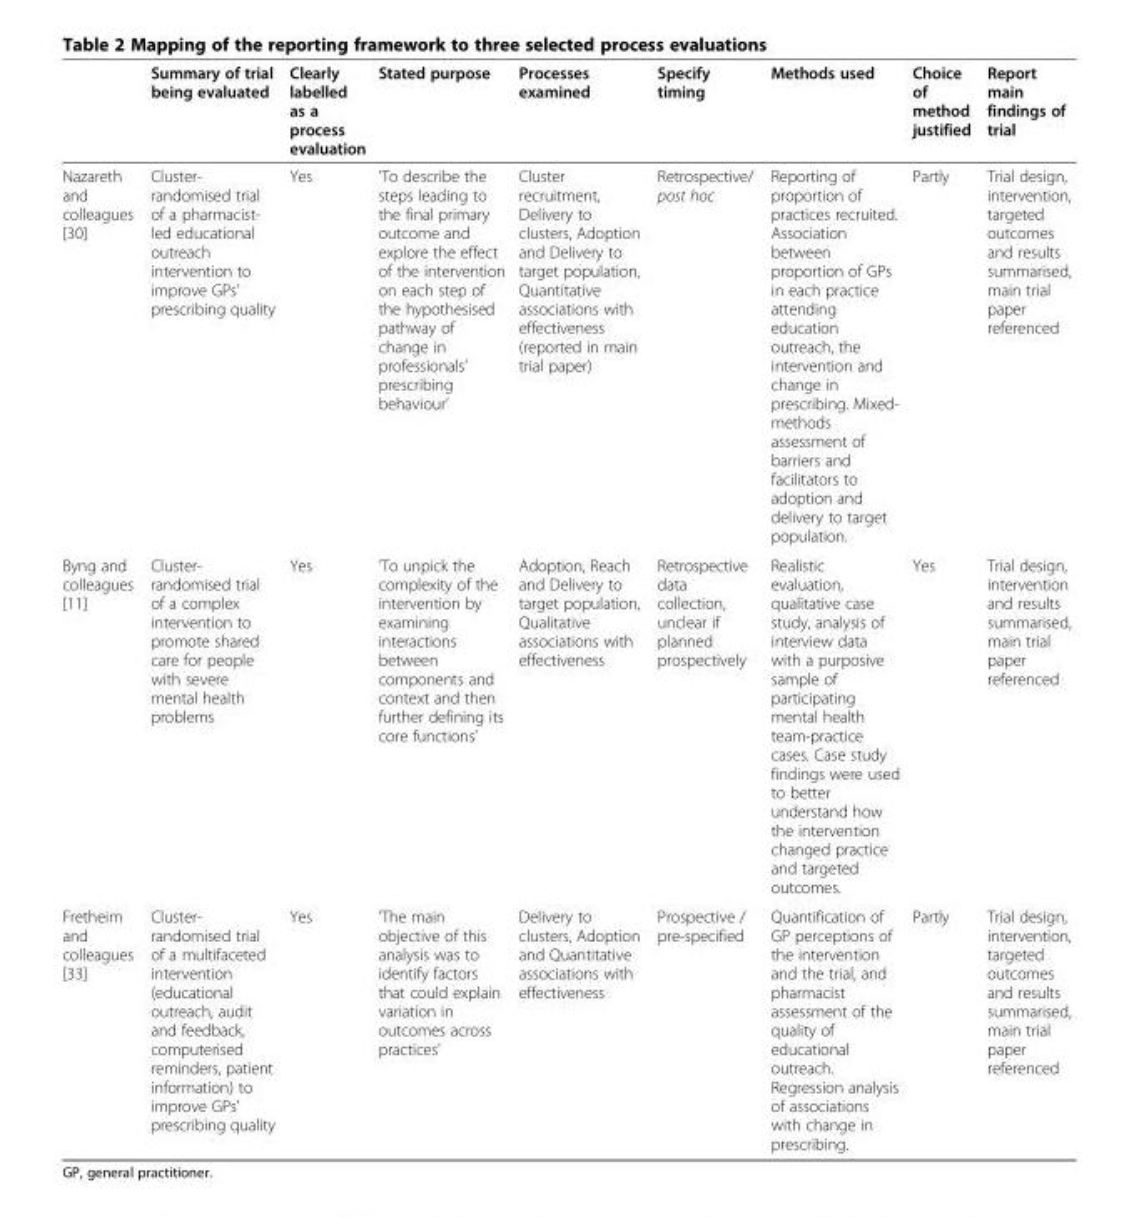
<table><thead><tr><td></td><td>Summary of trial being evaluated</td><td>Clearly labelled as a process evaluation</td><td>Stated purpose</td><td>Processes examined</td><td>Specify timing</td><td>Methods used</td><td>Choice of method justified</td><td>Report main findings of trial</td></tr></thead><tbody><tr><td>Nazareth and colleagues [30]</td><td>Cluster- randomised trial of a pharmacist- led educational outreach intervention to improve GPs’ prescribing quality</td><td>Yes</td><td>’To describe the steps leading to the final primary outcome and explore the effect of the intervention on each step of the hypothesised pathway of change in professionals’ prescribing behaviour’</td><td>Cluster recruitment, Delivery to clusters, Adoption and Delivery to target population, Quantitative associations with effectiveness (reported in main trial paper)</td><td>Retrospective/ post hoc</td><td>Reporting of proportion of practices recruited. Association between proportion of GPs in each practice attending education outreach, the intervention and change in prescribing. Mixed- methods assessment of barriers and facilitators to adoption and delivery to target population.</td><td>Partly</td><td>Trial design, intervention, targeted outcomes and results summarised, main trial paper referenced</td></tr><tr><td>Byng and colleagues [11]</td><td>Cluster- randomised trial of a complex intervention to promote shared care for people with severe mental health problems</td><td>Yes</td><td>’To unpick the complexity of the intervention by examining interactions between components and context and then further defining its core functions’</td><td>Adoption, Reach and Delivery to target population, Qualitative associations with effectiveness</td><td>Retrospective data collection, unclear if planned prospectively</td><td>Realistic evaluation, qualitative case study, analysis of interview data with a purposive sample of participating mental health team-practice cases. Case study findings were used to better understand how the intervention changed practice and targeted outcomes.</td><td>Yes</td><td>Trial design, intervention and results summarised, main trial paper referenced</td></tr><tr><td>Fretheim and colleagues [33]</td><td>Cluster- randomised trial of a multifaceted intervention (educational outreach, audit and feedback, computerised reminders, patient information) to improve GPs’ prescribing quality</td><td>Yes</td><td>’The main objective of this analysis was to identify factors that could explain variation in outcomes across practices’</td><td>Delivery to clusters, Adoption and Quantitative associations with effectiveness</td><td>Prospective / pre-specified</td><td>Quantification of GP perceptions of the intervention and the trial, and pharmacist assessment of the quality of educational outreach. Regression analysis of associations with change in prescribing.</td><td>Partly</td><td>Trial design, intervention, targeted outcomes and results summarised, main trial paper referenced</td></tr></tbody></table>